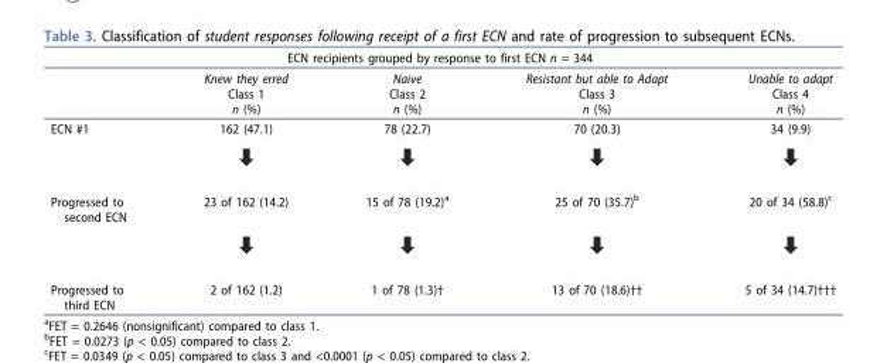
<table><thead><tr><td colspan="5">ECN recipients grouped by response to first ECN n = 344</td></tr><tr><td></td><td>Knew they erred Class 1 n (%)</td><td>Naive Class 2 n (%)</td><td>Resistant but able to Adapt Class 3 n (%)</td><td>Unable to adapt Class 4 n (%)</td></tr></thead><tbody><tr><td>ECN #1</td><td>162 (47.1)</td><td>78 (22.7)</td><td>70 (20.3)</td><td>34 (9.9)</td></tr><tr><td>Progressed to second ECN</td><td>23 of 162 (14.2)</td><td>15 of 78 (19.2)<sup>a</sup></td><td>25 of 70 (35.7)<sup>b</sup></td><td>20 of 34 (58.8)<sup>c</sup></td></tr><tr><td>Progressed to third ECN</td><td>2 of 162 (1.2)</td><td>1 of 78 (1.3)†</td><td>13 of 70 (18.6)††</td><td>5 of 34 (14.7)†††</td></tr></tbody></table>